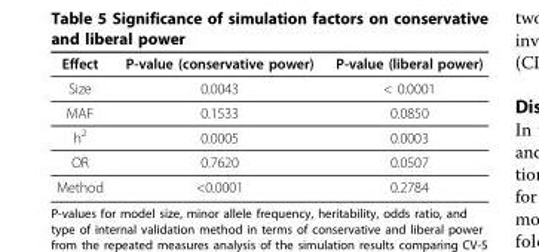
<table><thead><tr><td>Effect</td><td>P-value (conservative power)</td><td>P-value (liberal power)</td></tr></thead><tbody><tr><td>Size</td><td>0.0043</td><td>&lt; 0.0001</td></tr><tr><td>MAF</td><td>0.1533</td><td>0.0850</td></tr><tr><td>h<sup>2</sup></td><td>0.0005</td><td>0.0003</td></tr><tr><td>OR</td><td>0.7620</td><td>0.0507</td></tr><tr><td>Method</td><td>&lt;0.0001</td><td>0.2784</td></tr></tbody></table>